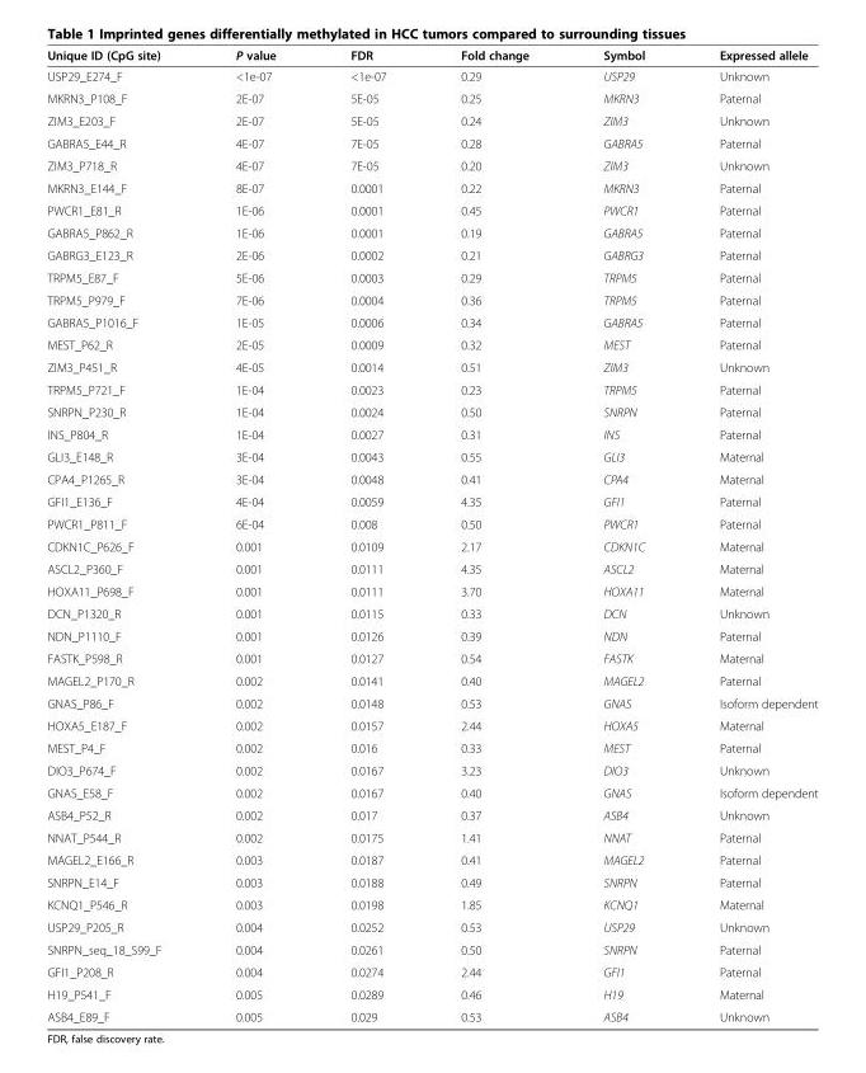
<table><thead><tr><td>Unique ID (CpG site)</td><td>P value</td><td>FDR</td><td>Fold change</td><td>Symbol</td><td>Expressed allele</td></tr></thead><tbody><tr><td>USP29_E274_F</td><td>&lt;1e-07</td><td>&lt;1e-07</td><td>0.29</td><td>USP29</td><td>Unknown</td></tr><tr><td>MKRN3_P108_F</td><td>2E-07</td><td>5E-05</td><td>0.25</td><td>MKRN3</td><td>Paternal</td></tr><tr><td>ZIM3_E203_F</td><td>2E-07</td><td>5E-05</td><td>0.24</td><td>ZIM3</td><td>Unknown</td></tr><tr><td>GABRA5_E44_R</td><td>4E-07</td><td>7E-05</td><td>0.28</td><td>GABRA5</td><td>Paternal</td></tr><tr><td>ZIM3_P718_R</td><td>4E-07</td><td>7E-05</td><td>0.20</td><td>ZIM3</td><td>Unknown</td></tr><tr><td>MKRN3_E144_F</td><td>8E-07</td><td>0.0001</td><td>0.22</td><td>MKRN3</td><td>Paternal</td></tr><tr><td>PWCR1_E81_R</td><td>1E-06</td><td>0.0001</td><td>0.45</td><td>PWCR1</td><td>Paternal</td></tr><tr><td>GABRA5_P862_R</td><td>1E-06</td><td>0.0001</td><td>0.19</td><td>GABRA5</td><td>Paternal</td></tr><tr><td>GABRG3_E123_R</td><td>2E-06</td><td>0.0002</td><td>0.21</td><td>GABRG3</td><td>Paternal</td></tr><tr><td>TRPM5_E87_F</td><td>5E-06</td><td>0.0003</td><td>0.29</td><td>TRPM5</td><td>Paternal</td></tr><tr><td>TRPM5_P979_F</td><td>7E-06</td><td>0.0004</td><td>0.36</td><td>TRPM5</td><td>Paternal</td></tr><tr><td>GABRA5_P1016_F</td><td>1E-05</td><td>0.0006</td><td>0.34</td><td>GABRA5</td><td>Paternal</td></tr><tr><td>MEST_P62_R</td><td>2E-05</td><td>0.0009</td><td>0.32</td><td>MEST</td><td>Paternal</td></tr><tr><td>ZIM3_P451_R</td><td>4E-05</td><td>0.0014</td><td>0.51</td><td>ZIM3</td><td>Unknown</td></tr><tr><td>TRPM5_P721_F</td><td>1E-04</td><td>0.0023</td><td>0.23</td><td>TRPM5</td><td>Paternal</td></tr><tr><td>SNRPN_P230_R</td><td>1E-04</td><td>0.0024</td><td>0.50</td><td>SNRPN</td><td>Paternal</td></tr><tr><td>INS_P804_R</td><td>1E-04</td><td>0.0027</td><td>0.31</td><td>INS</td><td>Paternal</td></tr><tr><td>GLI3_E148_R</td><td>3E-04</td><td>0.0043</td><td>0.55</td><td>GLI3</td><td>Maternal</td></tr><tr><td>CPA4_P1265_R</td><td>3E-04</td><td>0.0048</td><td>0.41</td><td>CPA4</td><td>Maternal</td></tr><tr><td>GFI1_E136_F</td><td>4E-04</td><td>0.0059</td><td>4.35</td><td>GFI1</td><td>Paternal</td></tr><tr><td>PWCR1_P811_F</td><td>6E-04</td><td>0.008</td><td>0.50</td><td>PWCR1</td><td>Paternal</td></tr><tr><td>CDKN1C_P626_F</td><td>0.001</td><td>0.0109</td><td>2.17</td><td>CDKN1C</td><td>Maternal</td></tr><tr><td>ASCL2_P360_F</td><td>0.001</td><td>0.0111</td><td>4.35</td><td>ASCL2</td><td>Maternal</td></tr><tr><td>HOXA11_P698_F</td><td>0.001</td><td>0.0111</td><td>3.70</td><td>HOXA11</td><td>Maternal</td></tr><tr><td>DCN_P1320_R</td><td>0.001</td><td>0.0115</td><td>0.33</td><td>DCN</td><td>Unknown</td></tr><tr><td>NDN_P1110_F</td><td>0.001</td><td>0.0126</td><td>0.39</td><td>NDN</td><td>Paternal</td></tr><tr><td>FASTK_P598_R</td><td>0.001</td><td>0.0127</td><td>0.54</td><td>FASTK</td><td>Maternal</td></tr><tr><td>MAGEL2_P170_R</td><td>0.002</td><td>0.0141</td><td>0.40</td><td>MAGEL2</td><td>Paternal</td></tr><tr><td>GNAS_P86_F</td><td>0.002</td><td>0.0148</td><td>0.53</td><td>GNAS</td><td>Isoform dependent</td></tr><tr><td>HOXA5_E187_F</td><td>0.002</td><td>0.0157</td><td>2.44</td><td>HOXA5</td><td>Maternal</td></tr><tr><td>MEST_P4_F</td><td>0.002</td><td>0.016</td><td>0.33</td><td>MEST</td><td>Paternal</td></tr><tr><td>DIO3_P674_F</td><td>0.002</td><td>0.0167</td><td>3.23</td><td>DIO3</td><td>Unknown</td></tr><tr><td>GNAS_E58_F</td><td>0.002</td><td>0.0167</td><td>0.40</td><td>GNAS</td><td>Isoform dependent</td></tr><tr><td>ASB4_P52_R</td><td>0.002</td><td>0.017</td><td>0.37</td><td>ASB4</td><td>Unknown</td></tr><tr><td>NNAT_P544_R</td><td>0.002</td><td>0.0175</td><td>1.41</td><td>NNAT</td><td>Paternal</td></tr><tr><td>MAGEL2_E166_R</td><td>0.003</td><td>0.0187</td><td>0.41</td><td>MAGEL2</td><td>Paternal</td></tr><tr><td>SNRPN_E14_F</td><td>0.003</td><td>0.0188</td><td>0.49</td><td>SNRPN</td><td>Paternal</td></tr><tr><td>KCNQ1_P546_R</td><td>0.003</td><td>0.0198</td><td>1.85</td><td>KCNQ1</td><td>Maternal</td></tr><tr><td>USP29_P205_R</td><td>0.004</td><td>0.0252</td><td>0.53</td><td>USP29</td><td>Unknown</td></tr><tr><td>SNRPN_seq_18_S99_F</td><td>0.004</td><td>0.0261</td><td>0.50</td><td>SNRPN</td><td>Paternal</td></tr><tr><td>GFI1_P208_R</td><td>0.004</td><td>0.0274</td><td>2.44</td><td>GFI1</td><td>Paternal</td></tr><tr><td>H19_P541_F</td><td>0.005</td><td>0.0289</td><td>0.46</td><td>H19</td><td>Maternal</td></tr><tr><td>ASB4_E89_F</td><td>0.005</td><td>0.029</td><td>0.53</td><td>ASB4</td><td>Unknown</td></tr></tbody></table>